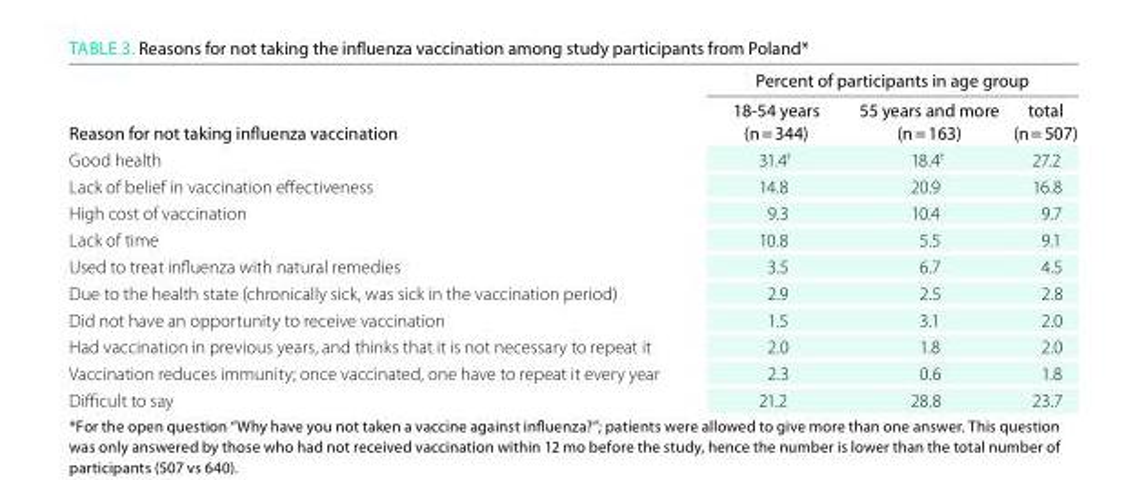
<table><thead><tr><td rowspan="2">reason for not taking influenza vaccination</td><td colspan="3">Percent of participants in age group</td></tr><tr><td>18-54 years (n = 344)</td><td>55 years and more (n = 163)</td><td>total (n = 507)</td></tr></thead><tbody><tr><td>Good health</td><td>31.4<sup>†</sup></td><td>18.4<sup>†</sup></td><td>27.2</td></tr><tr><td>Lack of belief in vaccination effectiveness</td><td>14.8</td><td>20.9</td><td>16.8</td></tr><tr><td>High cost of vaccination</td><td>9.3</td><td>10.4</td><td>9.7</td></tr><tr><td>Lack of time</td><td>10.8</td><td>5.5</td><td>9.1</td></tr><tr><td>Used to treat influenza with natural remedies</td><td>3.5</td><td>6.7</td><td>4.5</td></tr><tr><td>Due to the health state (chronically sick, was sick in the vaccination period)</td><td>2.9</td><td>2.5</td><td>2.8</td></tr><tr><td>Did not have an opportunity to receive vaccination</td><td>1.5</td><td>3.1</td><td>2.0</td></tr><tr><td>Had vaccination in previous years, and thinks that it is not necessary to repeat it</td><td>2.0</td><td>1.8</td><td>2.0</td></tr><tr><td>Vaccination reduces immunity; once vaccinated, one have to repeat it every year</td><td>2.3</td><td>0.6</td><td>1.8</td></tr><tr><td>Difficult to say</td><td>21.2</td><td>28.8</td><td>23.7</td></tr></tbody></table>